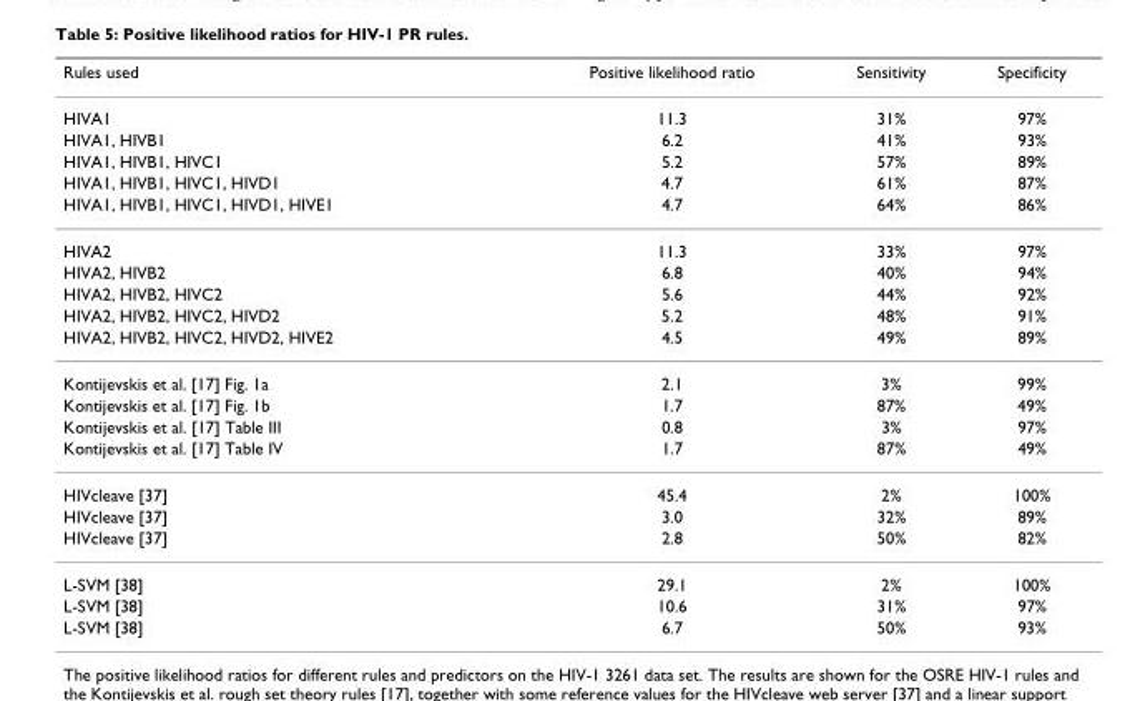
<table><thead><tr><td>Rules used</td><td>Positive likelihood ratio</td><td>Sensitivity</td><td>Specificity</td></tr></thead><tbody><tr><td>HIVA1</td><td>11.3</td><td>31%</td><td>97%</td></tr><tr><td>HIVA1, HIVB1</td><td>6.2</td><td>41%</td><td>93%</td></tr><tr><td>HIVA1, HIVB1, HIVC1</td><td>5.2</td><td>57%</td><td>89%</td></tr><tr><td>HIVA1, HIVB1, HIVC1, HIVD1</td><td>4.7</td><td>61%</td><td>87%</td></tr><tr><td>HIVA1, HIVB1, HIVC1, HIVD1, HIVE1</td><td>4.7</td><td>64%</td><td>86%</td></tr><tr><td>HIVA2</td><td>11.3</td><td>33%</td><td>97%</td></tr><tr><td>HIVA2, HIVB2</td><td>6.8</td><td>40%</td><td>94%</td></tr><tr><td>HIVA2, HIVB2, HIVC2</td><td>5.6</td><td>44%</td><td>92%</td></tr><tr><td>HIVA2, HIVB2, HIVC2, HIVD2</td><td>5.2</td><td>48%</td><td>91%</td></tr><tr><td>HIVA2, HIVB2, HIVC2, HIVD2, HIVE2</td><td>4.5</td><td>49%</td><td>89%</td></tr><tr><td>Kontijevskis et al. [17] Fig. 1a</td><td>2.1</td><td>3%</td><td>99%</td></tr><tr><td>Kontijevskis et al. [17] Fig. 1b</td><td>1.7</td><td>87%</td><td>49%</td></tr><tr><td>Kontijevskis et al. [17] Table III</td><td>0.8</td><td>3%</td><td>97%</td></tr><tr><td>Kontijevskis et al. [17] Table IV</td><td>1.7</td><td>87%</td><td>49%</td></tr><tr><td>HIVcleave [37]</td><td>45.4</td><td>2%</td><td>100%</td></tr><tr><td>HIVcleave [37]</td><td>3.0</td><td>32%</td><td>89%</td></tr><tr><td>HIVcleave [37]</td><td>2.8</td><td>50%</td><td>82%</td></tr><tr><td>L-SVM [38]</td><td>29.1</td><td>2%</td><td>100%</td></tr><tr><td>L-SVM [38]</td><td>10.6</td><td>31%</td><td>97%</td></tr><tr><td>L-SVM [38]</td><td>6.7</td><td>50%</td><td>93%</td></tr></tbody></table>